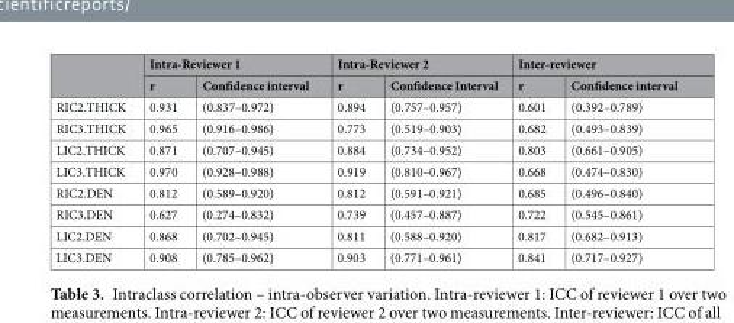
<table><thead><tr><td rowspan="2"></td><td colspan="2">Intra-Reviewer 1</td><td colspan="2">Intra-Reviewer 2</td><td colspan="2">Inter-reviewer</td></tr><tr><td>r</td><td>Confidence interval</td><td>r</td><td>Confidence Interval</td><td>r</td><td>Confidence interval</td></tr></thead><tbody><tr><td>RIC2.THICK</td><td>0.931</td><td>(0.837–0.972)</td><td>0.894</td><td>(0.757–0.957)</td><td>0.601</td><td>(0.392–0.789)</td></tr><tr><td>RIC3.THICK</td><td>0.965</td><td>(0.916–0.986)</td><td>0.773</td><td>(0.519–0.903)</td><td>0.682</td><td>(0.493–0.839)</td></tr><tr><td>LIC2.THICK</td><td>0.871</td><td>(0.707–0.945)</td><td>0.884</td><td>(0.734–0.952)</td><td>0.803</td><td>(0.661–0.905)</td></tr><tr><td>LIC3.THICK</td><td>0.970</td><td>(0.928–0.988)</td><td>0.919</td><td>(0.810–0.967)</td><td>0.668</td><td>(0.474–0.830)</td></tr><tr><td>RIC2.DEN</td><td>0.812</td><td>(0.589–0.920)</td><td>0.812</td><td>(0.591–0.921)</td><td>0.685</td><td>(0.496–0.840)</td></tr><tr><td>RIC3.DEN</td><td>0.627</td><td>(0.274–0.832)</td><td>0.739</td><td>(0.457–0.887)</td><td>0.722</td><td>(0.545–0.861)</td></tr><tr><td>LIC2.DEN</td><td>0.868</td><td>(0.702–0.945)</td><td>0.811</td><td>(0.588–0.920)</td><td>0.817</td><td>(0.682–0.913)</td></tr><tr><td>LIC3.DEN</td><td>0.908</td><td>(0.785–0.962)</td><td>0.903</td><td>(0.771–0.961)</td><td>0.841</td><td>(0.717–0.927)</td></tr></tbody></table>